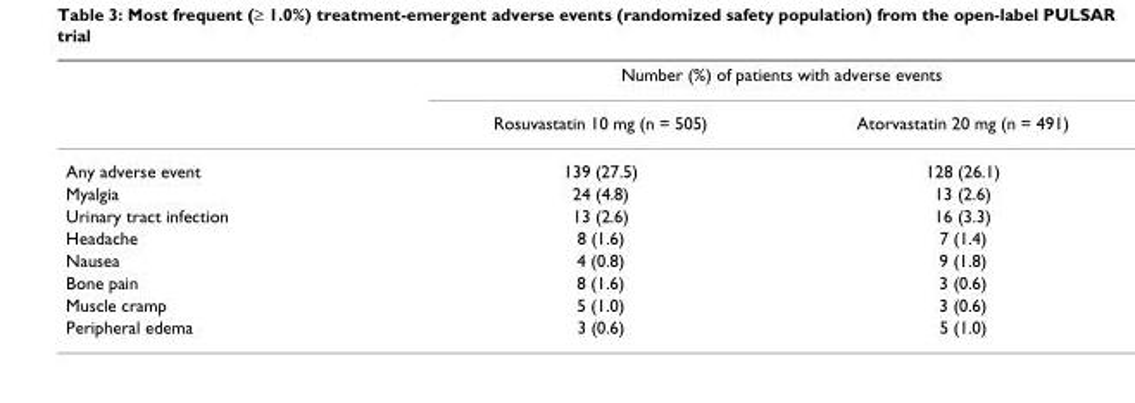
<table><thead><tr><td rowspan="2"></td><td colspan="2">Number (%) of patients with adverse events</td></tr><tr><td>Rosuvastatin 10 mg (n = 505)</td><td>Atorvastatin 20 mg (n = 491)</td></tr></thead><tbody><tr><td>Any adverse event</td><td>139 (27.5)</td><td>128 (26.1)</td></tr><tr><td>Myalgia</td><td>24 (4.8)</td><td>13 (2.6)</td></tr><tr><td>Urinary tract infection</td><td>13 (2.6)</td><td>16 (3.3)</td></tr><tr><td>Headache</td><td>8 (1.6)</td><td>7 (1.4)</td></tr><tr><td>Nausea</td><td>4 (0.8)</td><td>9 (1.8)</td></tr><tr><td>Bone pain</td><td>8 (1.6)</td><td>3 (0.6)</td></tr><tr><td>Muscle cramp</td><td>5 (1.0)</td><td>3 (0.6)</td></tr><tr><td>Peripheral edema</td><td>3 (0.6)</td><td>5 (1.0)</td></tr></tbody></table>